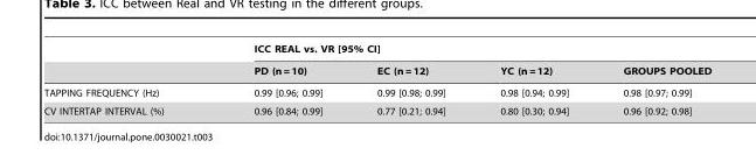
<table><thead><tr><td rowspan="2"></td><td colspan="4">ICC REAL vs. VR [95% CI]</td></tr><tr><td>PD (n = 10)</td><td>EC (n = 12)</td><td>YC (n = 12)</td><td>GROUPS POOLED</td></tr></thead><tbody><tr><td>TAPPING FREQUENCY (Hz)</td><td>0.99 [0.96; 0.99]</td><td>0.99 [0.98; 0.99]</td><td>0.98 [0.94; 0.99]</td><td>0.98 [0.97; 0.99]</td></tr><tr><td>CV INTERTAP INTERVAL (%)</td><td>0.96 [0.84; 0.99]</td><td>0.77 [0.21; 0.94]</td><td>0.80 [0.30; 0.94]</td><td>0.96 [0.92; 0.98]</td></tr></tbody></table>